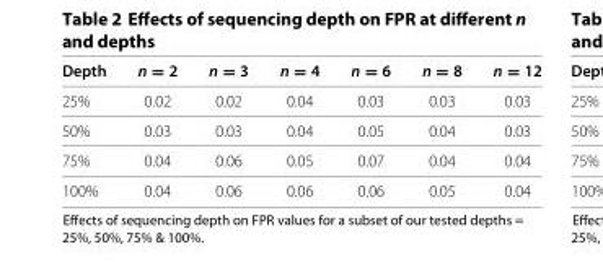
<table><thead><tr><td>Depth</td><td>n = 2</td><td>n = 3</td><td>n = 4</td><td>n = 6</td><td>n = 8</td><td>n = 12</td></tr></thead><tbody><tr><td>25%</td><td>0.02</td><td>0.02</td><td>0.04</td><td>0.03</td><td>0.03</td><td>0.03</td></tr><tr><td>50%</td><td>0.03</td><td>0.03</td><td>0.04</td><td>0.05</td><td>0.04</td><td>0.03</td></tr><tr><td>75%</td><td>0.04</td><td>0.06</td><td>0.05</td><td>0.07</td><td>0.04</td><td>0.04</td></tr><tr><td>100%</td><td>0.04</td><td>0.06</td><td>0.06</td><td>0.06</td><td>0.05</td><td>0.04</td></tr></tbody></table>